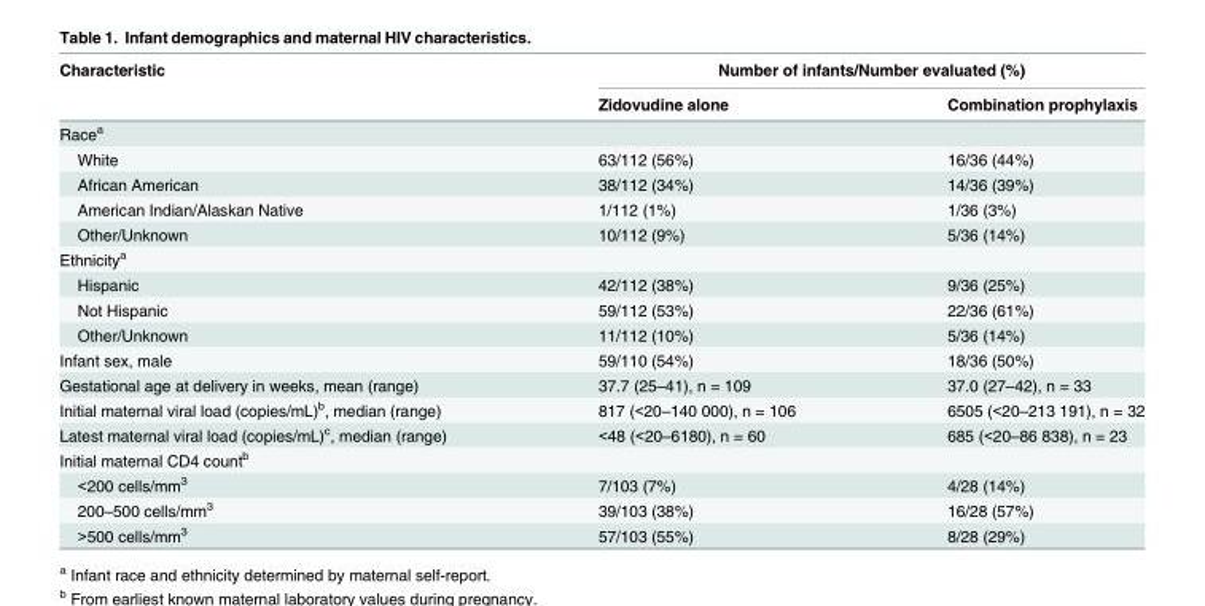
<table><thead><tr><td rowspan="2">Characteristic</td><td colspan="2">Number of infants/Number evaluated (%)</td></tr><tr><td>Zidovudine alone</td><td>Combination prophylaxis</td></tr></thead><tbody><tr><td colspan="3">Race<sup>a</sup></td></tr><tr><td>White</td><td>63/112 (56%)</td><td>16/36 (44%)</td></tr><tr><td>African American</td><td>38/112 (34%)</td><td>14/36 (39%)</td></tr><tr><td>American Indian/Alaskan Native</td><td>1/112 (1%)</td><td>1/36 (3%)</td></tr><tr><td>Other/Unknown</td><td>10/112 (9%)</td><td>5/36 (14%)</td></tr><tr><td colspan="3">Ethnicity<sup>a</sup></td></tr><tr><td>Hispanic</td><td>42/112 (38%)</td><td>9/36 (25%)</td></tr><tr><td>Not Hispanic</td><td>59/112 (53%)</td><td>22/36 (61%)</td></tr><tr><td>Other/Unknown</td><td>11/112 (10%)</td><td>5/36 (14%)</td></tr><tr><td>Infant sex, male</td><td>59/110 (54%)</td><td>18/36 (50%)</td></tr><tr><td>Gestational age at delivery in weeks, mean (range)</td><td>37.7 (25–41), n = 109</td><td>37.0 (27–42), n = 33</td></tr><tr><td>Initial maternal viral load (copies/mL)<sup>b</sup>, median (range)</td><td>817 (&lt;20–140 000), n = 106</td><td>6505 (&lt;20–213 191), n = 32</td></tr><tr><td>Latest maternal viral load (copies/mL)<sup>c</sup>, median (range)</td><td>&lt;48 (&lt;20–6180), n = 60</td><td>685 (&lt;20–86 838), n = 23</td></tr><tr><td colspan="3">Initial maternal CD4 count<sup>b</sup></td></tr><tr><td>&lt;200 cells/mm<sup>3</sup></td><td>7/103 (7%)</td><td>4/28 (14%)</td></tr><tr><td>200–500 cells/mm<sup>3</sup></td><td>39/103 (38%)</td><td>16/28 (57%)</td></tr><tr><td>&gt;500 cells/mm<sup>3</sup></td><td>57/103 (55%)</td><td>8/28 (29%)</td></tr></tbody></table>